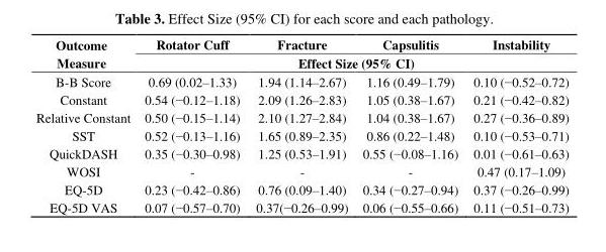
<table><thead><tr><td rowspan="2">Outcome Measure</td><td>Rotator Cuff</td><td>Fracture</td><td>Capsulitis</td><td>Instability</td></tr><tr><td colspan="4">Effect Size (95% CI)</td></tr></thead><tbody><tr><td>B-B Score</td><td>0.69 (0.02–1.33)</td><td>1.94 (1.14–2.67)</td><td>1.16 (0.49–1.79)</td><td>0.10 (−0.52–0.72)</td></tr><tr><td>Constant</td><td>0.54 (−0.12–1.18)</td><td>2.09 (1.26–2.83)</td><td>1.05 (0.38–1.67)</td><td>0.21 (−0.42–0.82)</td></tr><tr><td>Relative Constant</td><td>0.50 (−0.15–1.14)</td><td>2.10 (1.27–2.84)</td><td>1.04 (0.38–1.67)</td><td>0.27 (−0.36–0.89)</td></tr><tr><td>SST</td><td>0.52 (−0.13–1.16)</td><td>1.65 (0.89–2.35)</td><td>0.86 (0.22–1.48)</td><td>0.10 (−0.53–0.71)</td></tr><tr><td>QuickDASH</td><td>0.35 (−0.30–0.98)</td><td>1.25 (0.53–1.91)</td><td>0.55 (−0.08–1.16)</td><td>0.01 (−0.61–0.63)</td></tr><tr><td>WOSI</td><td>-</td><td>-</td><td>-</td><td>0.47 (0.17–1.09)</td></tr><tr><td>EQ-5D</td><td>0.23 (−0.42–0.86)</td><td>0.76 (0.09–1.40)</td><td>0.34 (−0.27–0.94)</td><td>0.37 (−0.26–0.99)</td></tr><tr><td>EQ-5D VAS</td><td>0.07 (−0.57–0.70)</td><td>0.37(−0.26–0.99)</td><td>0.06 (−0.55–0.66)</td><td>0.11 (−0.51–0.73)</td></tr></tbody></table>